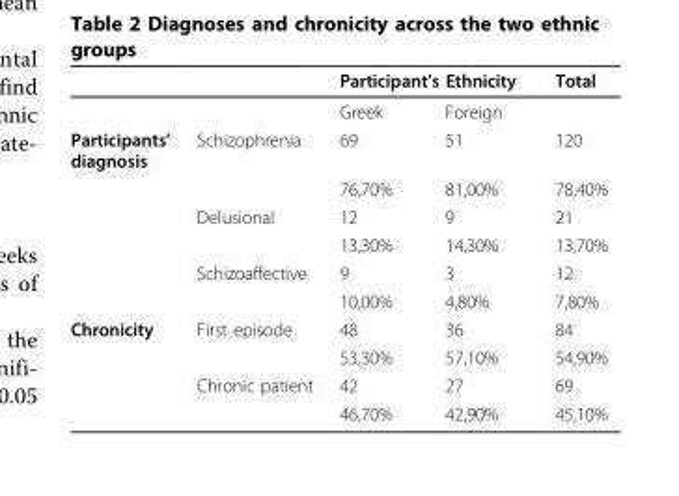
<table><thead><tr><td rowspan="2"></td><td rowspan="2"></td><td colspan="2">Participant’s Ethnicity</td><td rowspan="2">Total</td></tr><tr><td>Greek</td><td>Foreign</td></tr></thead><tbody><tr><td rowspan="6">Participants’ diagnosis</td><td>Schizophrenia</td><td>69</td><td>51</td><td>120</td></tr><tr><td></td><td>76,70%</td><td>81,00%</td><td>78,40%</td></tr><tr><td>Delusional</td><td>12</td><td>9</td><td>21</td></tr><tr><td></td><td>13,30%</td><td>14,30%</td><td>13,70%</td></tr><tr><td>Schizoaffective</td><td>9</td><td>3</td><td>12</td></tr><tr><td></td><td>10,00%</td><td>4,80%</td><td>7,80%</td></tr><tr><td rowspan="4">Chronicity</td><td>First episode</td><td>48</td><td>36</td><td>84</td></tr><tr><td></td><td>53,30%</td><td>57,10%</td><td>54,90%</td></tr><tr><td>Chronic patient</td><td>42</td><td>27</td><td>69</td></tr><tr><td></td><td>46,70%</td><td>42,90%</td><td>45,10%</td></tr></tbody></table>